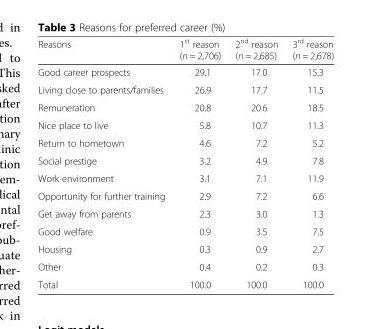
<table><thead><tr><td>Reasons</td><td>1<sup>st</sup> reason (n = 2,706)</td><td>2<sup>nd</sup> reason (n = 2,685)</td><td>3<sup>rd</sup> reason (n = 2,678)</td></tr></thead><tbody><tr><td>Good career prospects</td><td>29.1</td><td>17.0</td><td>15.3</td></tr><tr><td>Living close to parents/families</td><td>26.9</td><td>17.7</td><td>11.5</td></tr><tr><td>Remuneration</td><td>20.8</td><td>20.6</td><td>18.5</td></tr><tr><td>Nice place to live</td><td>5.8</td><td>10.7</td><td>11.3</td></tr><tr><td>Return to hometown</td><td>4.6</td><td>7.2</td><td>5.2</td></tr><tr><td>Social prestige</td><td>3.2</td><td>4.9</td><td>7.8</td></tr><tr><td>Work environment</td><td>3.1</td><td>7.1</td><td>11.9</td></tr><tr><td>Opportunity for further training</td><td>2.9</td><td>7.2</td><td>6.6</td></tr><tr><td>Get away from parents</td><td>2.3</td><td>3.0</td><td>1.3</td></tr><tr><td>Good welfare</td><td>0.9</td><td>3.5</td><td>7.5</td></tr><tr><td>Housing</td><td>0.3</td><td>0.9</td><td>2.7</td></tr><tr><td>Other</td><td>0.4</td><td>0.2</td><td>0.3</td></tr><tr><td>Total</td><td>100.0</td><td>100.0</td><td>100.0</td></tr></tbody></table>